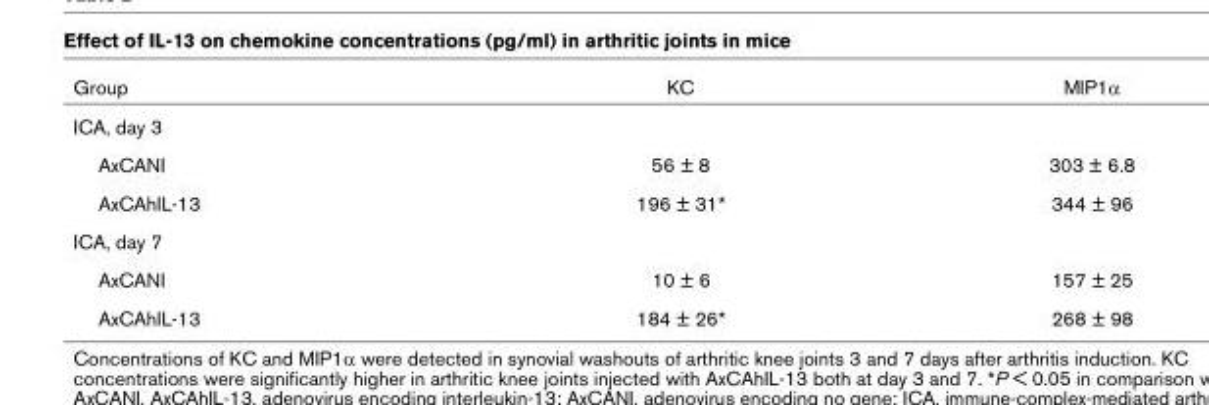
<table><thead><tr><td>Group</td><td>KC</td><td>MIP1α</td></tr></thead><tbody><tr><td colspan="3">ICA, day 3</td></tr><tr><td>AxCANI</td><td>56 ± 8</td><td>303 ± 6.8</td></tr><tr><td>AxCAhIL-13</td><td>196 ± 31*</td><td>344 ± 96</td></tr><tr><td colspan="3">ICA, day 7</td></tr><tr><td>AxCANI</td><td>10 ± 6</td><td>157 ± 25</td></tr><tr><td>AxCAhIL-13</td><td>184 ± 26*</td><td>268 ± 98</td></tr></tbody></table>